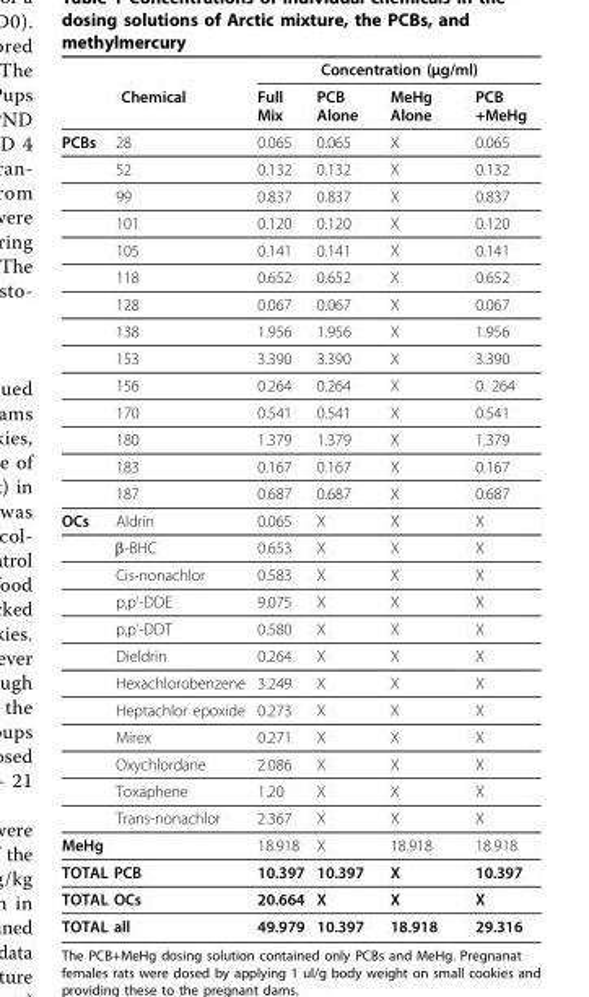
<table><thead><tr><td></td><td></td><td colspan="4">Concentration (μg/ml)</td></tr><tr><td colspan="2">Chemical</td><td>Full Mix</td><td>PCB Alone</td><td>MeHg Alone</td><td>PCB +MeHg</td></tr></thead><tbody><tr><td rowspan="14">PCBs</td><td>28</td><td>0.065</td><td>0.065</td><td>X</td><td>0.065</td></tr><tr><td>52</td><td>0.132</td><td>0.132</td><td>X</td><td>0.132</td></tr><tr><td>99</td><td>0.837</td><td>0.837</td><td>X</td><td>0.837</td></tr><tr><td>101</td><td>0.120</td><td>0.120</td><td>X</td><td>0.120</td></tr><tr><td>105</td><td>0.141</td><td>0.141</td><td>X</td><td>0.141</td></tr><tr><td>118</td><td>0.652</td><td>0.652</td><td>X</td><td>0.652</td></tr><tr><td>128</td><td>0.067</td><td>0.067</td><td>X</td><td>0.067</td></tr><tr><td>138</td><td>1.956</td><td>1.956</td><td>X</td><td>1.956</td></tr><tr><td>153</td><td>3.390</td><td>3.390</td><td>X</td><td>3.390</td></tr><tr><td>156</td><td>0.264</td><td>0.264</td><td>X</td><td>0. 264</td></tr><tr><td>170</td><td>0.541</td><td>0.541</td><td>X</td><td>0.541</td></tr><tr><td>180</td><td>1.379</td><td>1.379</td><td>X</td><td>1.379</td></tr><tr><td>183</td><td>0.167</td><td>0.167</td><td>X</td><td>0.167</td></tr><tr><td>187</td><td>0.687</td><td>0.687</td><td>X</td><td>0.687</td></tr><tr><td rowspan="12">OCs</td><td>Aldrin</td><td>0.065</td><td>X</td><td>X</td><td>X</td></tr><tr><td>β-BHC</td><td>0.653</td><td>X</td><td>X</td><td>X</td></tr><tr><td>Cis-nonachlor</td><td>0.583</td><td>X</td><td>X</td><td>X</td></tr><tr><td>p,p’-DDE</td><td>9.075</td><td>X</td><td>X</td><td>X</td></tr><tr><td>p,p’-DDT</td><td>0.580</td><td>X</td><td>X</td><td>X</td></tr><tr><td>Dieldrin</td><td>0.264</td><td>X</td><td>X</td><td>X</td></tr><tr><td>Hexachlorobenzene</td><td>3.249</td><td>X</td><td>X</td><td>X</td></tr><tr><td>Heptachlor epoxide</td><td>0.273</td><td>X</td><td>X</td><td>X</td></tr><tr><td>Mirex</td><td>0.271</td><td>X</td><td>X</td><td>X</td></tr><tr><td>Oxychlordane</td><td>2.086</td><td>X</td><td>X</td><td>X</td></tr><tr><td>Toxaphene</td><td>1.20</td><td>X</td><td>X</td><td>X</td></tr><tr><td>Trans-nonachlor</td><td>2.367</td><td>X</td><td>X</td><td>X</td></tr><tr><td>MeHg</td><td></td><td>18.918</td><td>X</td><td>18.918</td><td>18.918</td></tr><tr><td colspan="2">TOTAL PCB</td><td>10.397</td><td>10.397</td><td>X</td><td>10.397</td></tr><tr><td colspan="2">TOTAL OCs</td><td>20.664</td><td>X</td><td>X</td><td>X</td></tr><tr><td colspan="2">TOTAL all</td><td>49.979</td><td>10.397</td><td>18.918</td><td>29.316</td></tr></tbody></table>